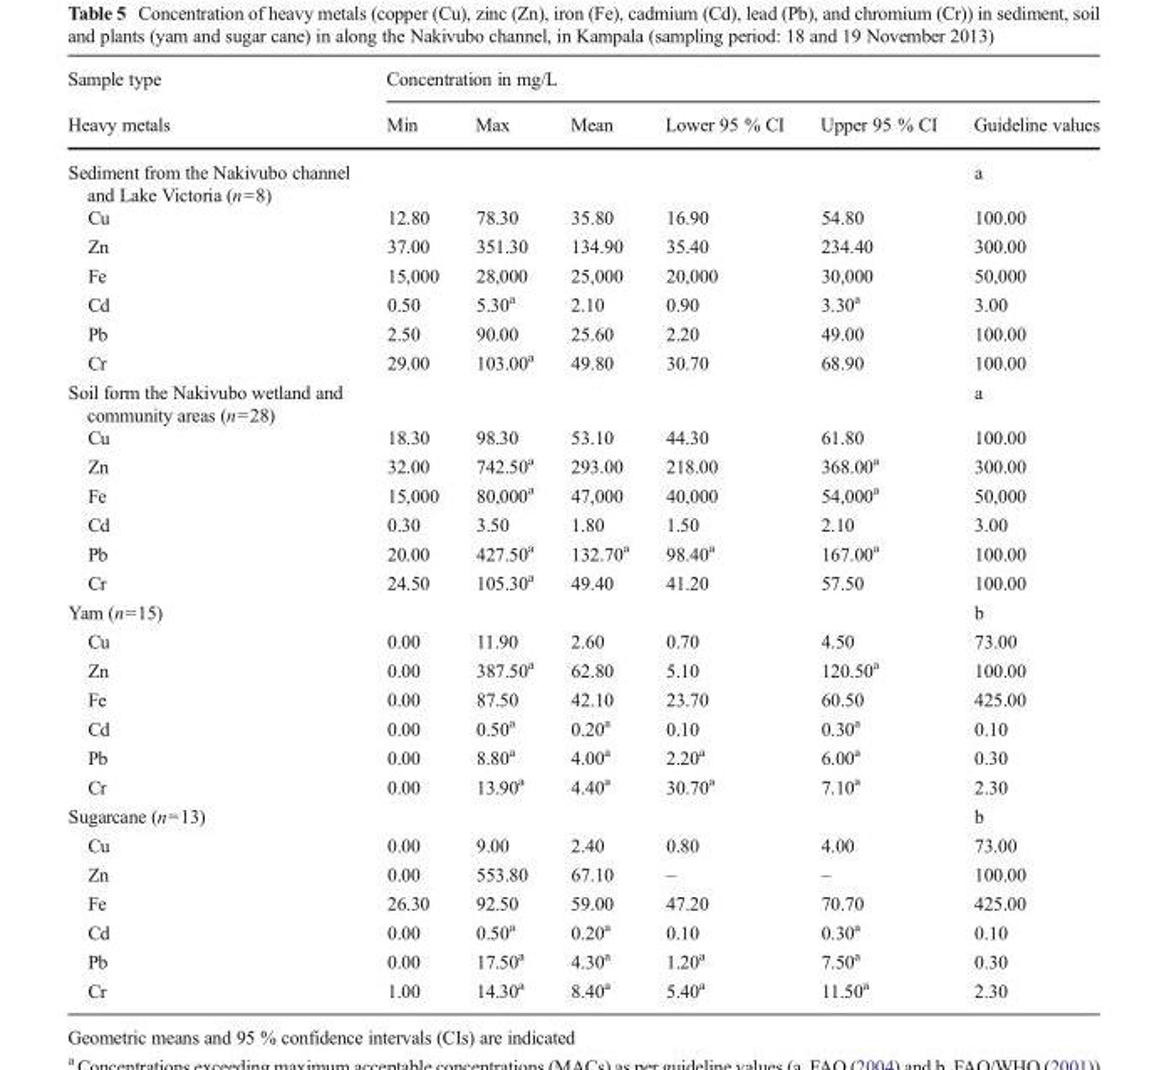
<table><thead><tr><td rowspan="2">Sample type Heavy metals</td><td colspan="6">Concentration in mg/L</td></tr><tr><td>Min</td><td>Max</td><td>Mean</td><td>Lower 95 % CI</td><td>Upper 95 % CI</td><td>Guideline values</td></tr></thead><tbody><tr><td>Sediment from the Nakivubo channel and Lake Victoria (n=8)</td><td></td><td></td><td></td><td></td><td></td><td>a</td></tr><tr><td>Cu</td><td>12.80</td><td>78.30</td><td>35.80</td><td>16.90</td><td>54.80</td><td>100.00</td></tr><tr><td>Zn</td><td>37.00</td><td>351.30</td><td>134.90</td><td>35.40</td><td>234.40</td><td>300.00</td></tr><tr><td>Fe</td><td>15,000</td><td>28,000</td><td>25,000</td><td>20,000</td><td>30,000</td><td>50,000</td></tr><tr><td>Cd</td><td>0.50</td><td>5.30<sup>a</sup></td><td>2.10</td><td>0.90</td><td>3.30<sup>a</sup></td><td>3.00</td></tr><tr><td>Pb</td><td>2.50</td><td>90.00</td><td>25.60</td><td>2.20</td><td>49.00</td><td>100.00</td></tr><tr><td>Cr</td><td>29.00</td><td>103.00<sup>a</sup></td><td>49.80</td><td>30.70</td><td>68.90</td><td>100.00</td></tr><tr><td>Soil form the Nakivubo wetland and community areas (n=28)</td><td></td><td></td><td></td><td></td><td></td><td>a</td></tr><tr><td>Cu</td><td>18.30</td><td>98.30</td><td>53.10</td><td>44.30</td><td>61.80</td><td>100.00</td></tr><tr><td>Zn</td><td>32.00</td><td>742.50<sup>a</sup></td><td>293.00</td><td>218.00</td><td>368.00<sup>a</sup></td><td>300.00</td></tr><tr><td>Fe</td><td>15,000</td><td>80,000<sup>a</sup></td><td>47,000</td><td>40,000</td><td>54,000<sup>a</sup></td><td>50,000</td></tr><tr><td>Cd</td><td>0.30</td><td>3.50</td><td>1.80</td><td>1.50</td><td>2.10</td><td>3.00</td></tr><tr><td>Pb</td><td>20.00</td><td>427.50<sup>a</sup></td><td>132.70<sup>a</sup></td><td>98.40<sup>a</sup></td><td>167.00<sup>a</sup></td><td>100.00</td></tr><tr><td>Cr</td><td>24.50</td><td>105.30<sup>a</sup></td><td>49.40</td><td>41.20</td><td>57.50</td><td>100.00</td></tr><tr><td>Yam (n=15)</td><td></td><td></td><td></td><td></td><td></td><td>b</td></tr><tr><td>Cu</td><td>0.00</td><td>11.90</td><td>2.60</td><td>0.70</td><td>4.50</td><td>73.00</td></tr><tr><td>Zn</td><td>0.00</td><td>387.50<sup>a</sup></td><td>62.80</td><td>5.10</td><td>120.50<sup>a</sup></td><td>100.00</td></tr><tr><td>Fe</td><td>0.00</td><td>87.50</td><td>42.10</td><td>23.70</td><td>60.50</td><td>425.00</td></tr><tr><td>Cd</td><td>0.00</td><td>0.50<sup>a</sup></td><td>0.20<sup>a</sup></td><td>0.10</td><td>0.30<sup>a</sup></td><td>0.10</td></tr><tr><td>Pb</td><td>0.00</td><td>8.80<sup>a</sup></td><td>4.00<sup>a</sup></td><td>2.20<sup>a</sup></td><td>6.00<sup>a</sup></td><td>0.30</td></tr><tr><td>Cr</td><td>0.00</td><td>13.90<sup>a</sup></td><td>4.40<sup>a</sup></td><td>30.70<sup>a</sup></td><td>7.10<sup>a</sup></td><td>2.30</td></tr><tr><td>Sugarcane (n=13)</td><td></td><td></td><td></td><td></td><td></td><td>b</td></tr><tr><td>Cu</td><td>0.00</td><td>9.00</td><td>2.40</td><td>0.80</td><td>4.00</td><td>73.00</td></tr><tr><td>Zn</td><td>0.00</td><td>553.80</td><td>67.10</td><td>–</td><td>–</td><td>100.00</td></tr><tr><td>Fe</td><td>26.30</td><td>92.50</td><td>59.00</td><td>47.20</td><td>70.70</td><td>425.00</td></tr><tr><td>Cd</td><td>0.00</td><td>0.50<sup>a</sup></td><td>0.20<sup>a</sup></td><td>0.10</td><td>0.30<sup>a</sup></td><td>0.10</td></tr><tr><td>Pb</td><td>0.00</td><td>17.50<sup>a</sup></td><td>4.30<sup>a</sup></td><td>1.20<sup>a</sup></td><td>7.50<sup>a</sup></td><td>0.30</td></tr><tr><td>Cr</td><td>1.00</td><td>14.30<sup>a</sup></td><td>8.40<sup>a</sup></td><td>5.40<sup>a</sup></td><td>11.50<sup>a</sup></td><td>2.30</td></tr></tbody></table>